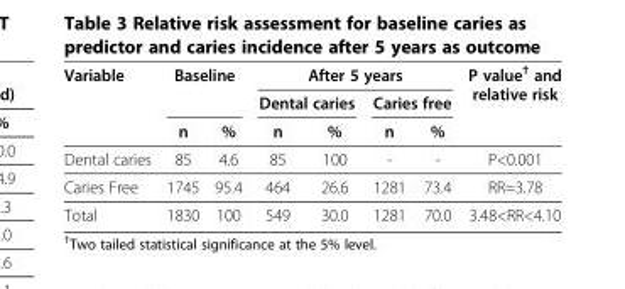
<table><thead><tr><td rowspan="3">Variable</td><td rowspan="2" colspan="2">Baseline</td><td colspan="4">After 5 years</td><td rowspan="3">P value<sup>†</sup> and relative risk</td></tr><tr><td colspan="2">Dental caries</td><td colspan="2">Caries free</td></tr><tr><td>n</td><td>%</td><td>n</td><td>%</td><td>n</td><td>%</td></tr></thead><tbody><tr><td>Dental caries</td><td>85</td><td>4.6</td><td>85</td><td>100</td><td>-</td><td>-</td><td>P&lt;0.001</td></tr><tr><td>Caries Free</td><td>1745</td><td>95.4</td><td>464</td><td>26.6</td><td>1281</td><td>73.4</td><td>RR=3.78</td></tr><tr><td>Total</td><td>1830</td><td>100</td><td>549</td><td>30.0</td><td>1281</td><td>70.0</td><td>3.48&lt;RR&lt;4.10</td></tr></tbody></table>